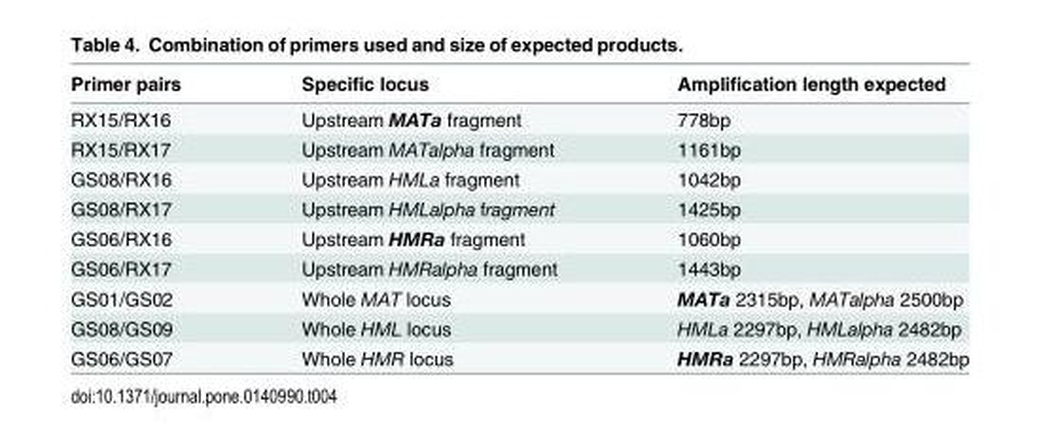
<table><thead><tr><td>Primer pairs</td><td>Specific locus</td><td>Amplification length expected</td></tr></thead><tbody><tr><td>RX15/RX16</td><td>Upstream MATa fragment</td><td>778bp</td></tr><tr><td>RX15/RX17</td><td>Upstream MATalpha fragment</td><td>1161bp</td></tr><tr><td>GS08/RX16</td><td>Upstream HMLa fragment</td><td>1042bp</td></tr><tr><td>GS08/RX17</td><td>Upstream HMLalpha fragment</td><td>1425bp</td></tr><tr><td>GS06/RX16</td><td>Upstream HMRa fragment</td><td>1060bp</td></tr><tr><td>GS06/RX17</td><td>Upstream HMRalpha fragment</td><td>1443bp</td></tr><tr><td>GS01/GS02</td><td>Whole MAT locus</td><td>MATa 2315bp, MATalpha 2500bp</td></tr><tr><td>GS08/GS09</td><td>Whole HML locus</td><td>HMLa 2297bp, HMLalpha 2482bp</td></tr><tr><td>GS06/GS07</td><td>Whole HMR locus</td><td>HMRa 2297bp, HMRalpha 2482bp</td></tr></tbody></table>